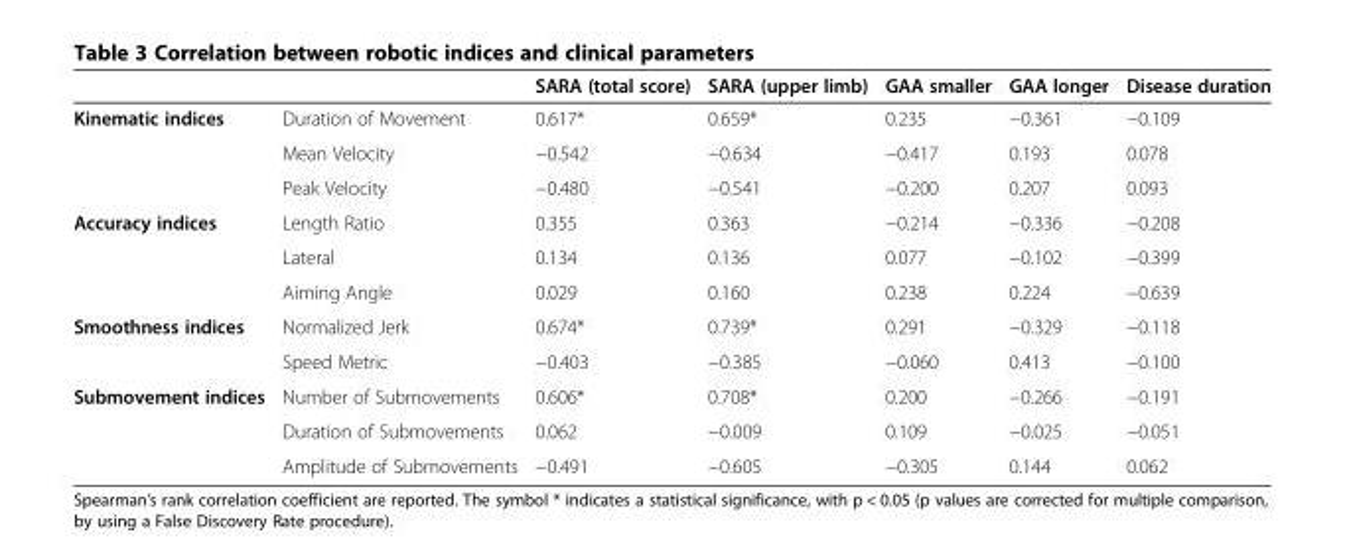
<table><thead><tr><td></td><td></td><td>SARA (total score)</td><td>SARA (upper limb)</td><td>GAA smaller</td><td>GAA longer</td><td>Disease duration</td></tr></thead><tbody><tr><td rowspan="3">Kinematic indices</td><td>Duration of Movement</td><td>0.617*</td><td>0.659*</td><td>0.235</td><td>−0.361</td><td>−0.109</td></tr><tr><td>Mean Velocity</td><td>−0.542</td><td>−0.634</td><td>−0.417</td><td>0.193</td><td>0.078</td></tr><tr><td>Peak Velocity</td><td>−0.480</td><td>−0.541</td><td>−0.200</td><td>0.207</td><td>0.093</td></tr><tr><td rowspan="3">Accuracy indices</td><td>Length Ratio</td><td>0.355</td><td>0.363</td><td>−0.214</td><td>−0.336</td><td>−0.208</td></tr><tr><td>Lateral</td><td>0.134</td><td>0.136</td><td>0.077</td><td>−0.102</td><td>−0.399</td></tr><tr><td>Aiming Angle</td><td>0.029</td><td>0.160</td><td>0.238</td><td>0.224</td><td>−0.639</td></tr><tr><td rowspan="2">Smoothness indices</td><td>Normalized Jerk</td><td>0.674*</td><td>0.739*</td><td>0.291</td><td>−0.329</td><td>−0.118</td></tr><tr><td>Speed Metric</td><td>−0.403</td><td>−0.385</td><td>−0.060</td><td>0.413</td><td>−0.100</td></tr><tr><td rowspan="3">Submovement indices</td><td>Number of Submovements</td><td>0.606*</td><td>0.708*</td><td>0.200</td><td>−0.266</td><td>−0.191</td></tr><tr><td>Duration of Submovements</td><td>0.062</td><td>−0.009</td><td>0.109</td><td>−0.025</td><td>−0.051</td></tr><tr><td>Amplitude of Submovements</td><td>−0.491</td><td>−0.605</td><td>−0.305</td><td>0.144</td><td>0.062</td></tr></tbody></table>